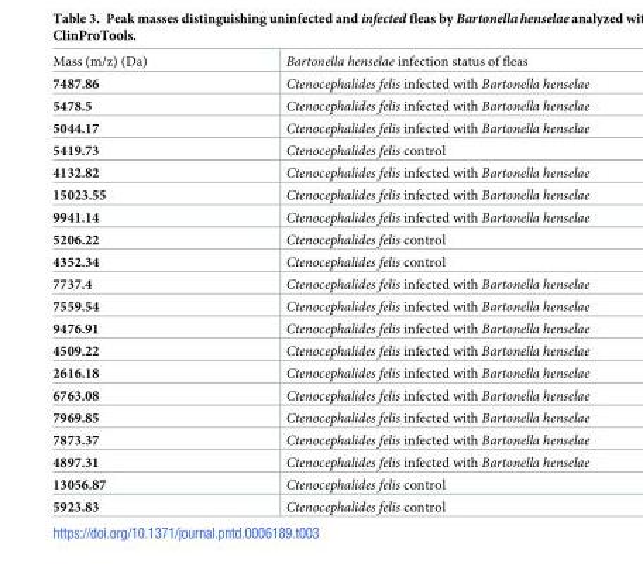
<table><tbody><tr><td>Mass (m/z) (Da)</td><td>Bartonella henselae infection status of fleas</td></tr><tr><td>7487.86</td><td>Ctenocephalides felis infected with Bartonella henselae</td></tr><tr><td>5478.5</td><td>Ctenocephalides felis infected with Bartonella henselae</td></tr><tr><td>5044.17</td><td>Ctenocephalides felis infected with Bartonella henselae</td></tr><tr><td>5419.73</td><td>Ctenocephalides felis control</td></tr><tr><td>4132.82</td><td>Ctenocephalides felis infected with Bartonella henselae</td></tr><tr><td>15023.55</td><td>Ctenocephalides felis infected with Bartonella henselae</td></tr><tr><td>9941.14</td><td>Ctenocephalides felis infected with Bartonella henselae</td></tr><tr><td>5206.22</td><td>Ctenocephalides felis control</td></tr><tr><td>4352.34</td><td>Ctenocephalides felis control</td></tr><tr><td>7737.4</td><td>Ctenocephalides felis infected with Bartonella henselae</td></tr><tr><td>7559.54</td><td>Ctenocephalides felis infected with Bartonella henselae</td></tr><tr><td>9476.91</td><td>Ctenocephalides felis infected with Bartonella henselae</td></tr><tr><td>4509.22</td><td>Ctenocephalides felis infected with Bartonella henselae</td></tr><tr><td>2616.18</td><td>Ctenocephalides felis infected with Bartonella henselae</td></tr><tr><td>6763.08</td><td>Ctenocephalides felis infected with Bartonella henselae</td></tr><tr><td>7969.85</td><td>Ctenocephalides felis infected with Bartonella henselae</td></tr><tr><td>7873.37</td><td>Ctenocephalides felis infected with Bartonella henselae</td></tr><tr><td>4897.31</td><td>Ctenocephalides felis infected with Bartonella henselae</td></tr><tr><td>13056.87</td><td>Ctenocephalides felis control</td></tr><tr><td>5923.83</td><td>Ctenocephalides felis control</td></tr></tbody></table>